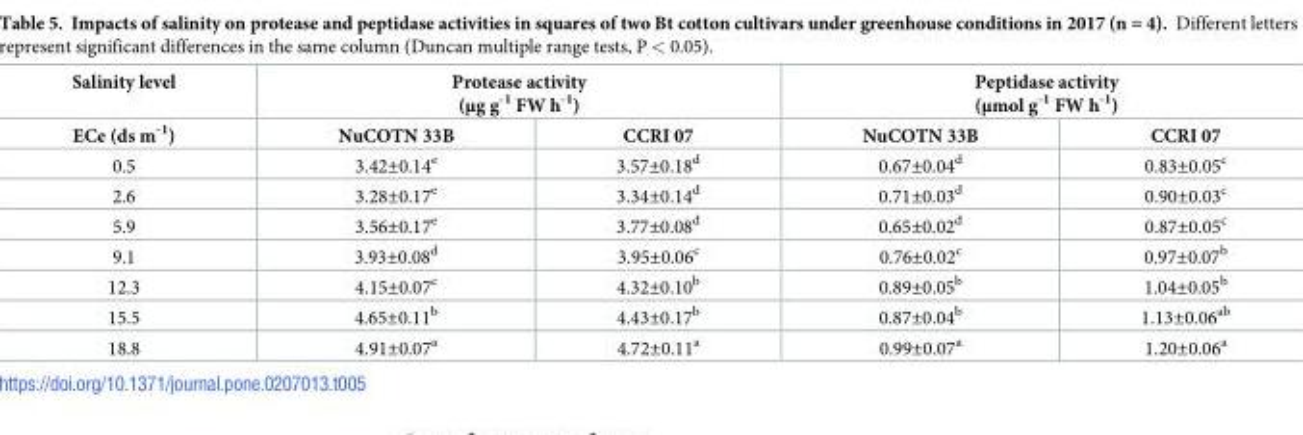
<table><thead><tr><td rowspan="2">Salinity level ECe (ds m<sup>-1</sup>)</td><td colspan="2">Protease activity (μg g<sup>-1</sup> FW h<sup>-1</sup>)</td><td colspan="2">Peptidase activity (μmol g<sup>-1</sup> FW h<sup>-1</sup>)</td></tr><tr><td>NuCOTN 33B</td><td>CCRI 07</td><td>NuCOTN 33B</td><td>CCRI 07</td></tr></thead><tbody><tr><td>0.5</td><td>3.42±0.14<sup>e</sup></td><td>3.57±0.18<sup>d</sup></td><td>0.67±0.04<sup>d</sup></td><td>0.83±0.05<sup>c</sup></td></tr><tr><td>2.6</td><td>3.28±0.17<sup>e</sup></td><td>3.34±0.14<sup>d</sup></td><td>0.71±0.03<sup>d</sup></td><td>0.90±0.03<sup>c</sup></td></tr><tr><td>5.9</td><td>3.56±0.17<sup>e</sup></td><td>3.77±0.08<sup>d</sup></td><td>0.65±0.02<sup>d</sup></td><td>0.87±0.05<sup>c</sup></td></tr><tr><td>9.1</td><td>3.93±0.08<sup>d</sup></td><td>3.95±0.06<sup>c</sup></td><td>0.76±0.02<sup>c</sup></td><td>0.97±0.07<sup>b</sup></td></tr><tr><td>12.3</td><td>4.15±0.07<sup>c</sup></td><td>4.32±0.10<sup>b</sup></td><td>0.89±0.05<sup>b</sup></td><td>1.04±0.05<sup>b</sup></td></tr><tr><td>15.5</td><td>4.65±0.11<sup>b</sup></td><td>4.43±0.17<sup>b</sup></td><td>0.87±0.04<sup>b</sup></td><td>1.13±0.06<sup>ab</sup></td></tr><tr><td>18.8</td><td>4.91±0.07<sup>a</sup></td><td>4.72±0.11<sup>a</sup></td><td>0.99±0.07<sup>a</sup></td><td>1.20±0.06<sup>a</sup></td></tr></tbody></table>